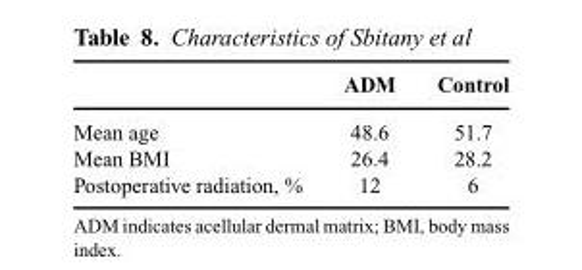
<table><thead><tr><td></td><td>ADM</td><td>Control</td></tr></thead><tbody><tr><td>Mean age</td><td>48.6</td><td>51.7</td></tr><tr><td>Mean BMI</td><td>26.4</td><td>28.2</td></tr><tr><td>Postoperative radiation, %</td><td>12</td><td>6</td></tr></tbody></table>